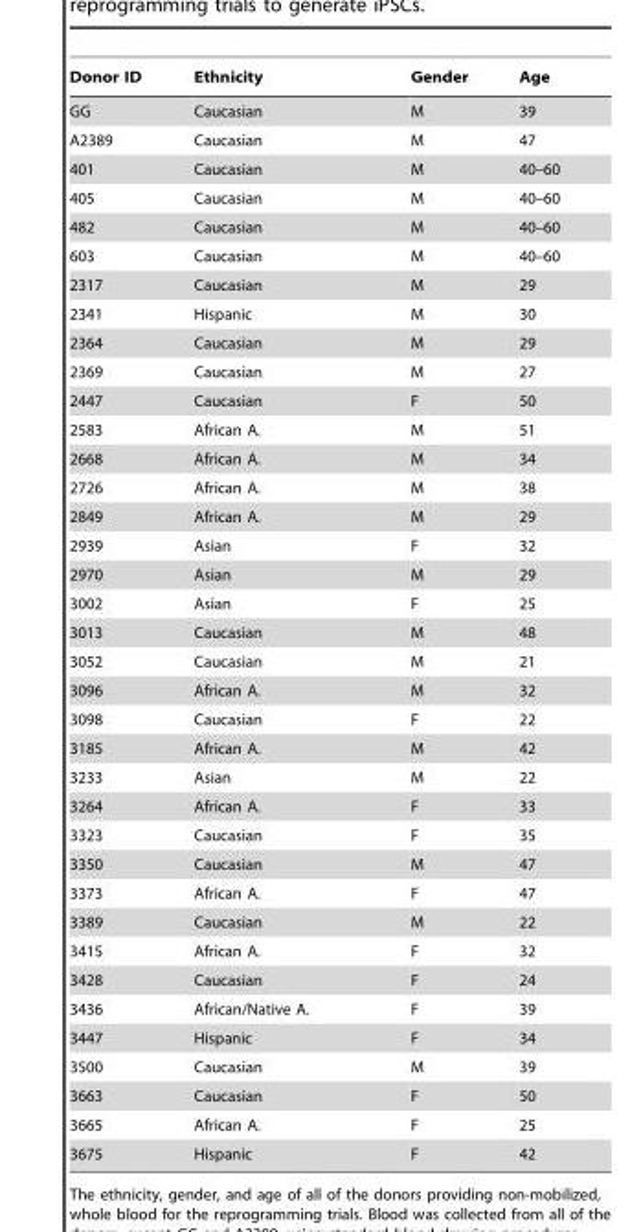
<table><thead><tr><td>Donor ID</td><td>Ethnicity</td><td>Gender</td><td>Age</td></tr></thead><tbody><tr><td>GG</td><td>Caucasian</td><td>M</td><td>39</td></tr><tr><td>A2389</td><td>Caucasian</td><td>M</td><td>47</td></tr><tr><td>401</td><td>Caucasian</td><td>M</td><td>40–60</td></tr><tr><td>405</td><td>Caucasian</td><td>M</td><td>40–60</td></tr><tr><td>482</td><td>Caucasian</td><td>M</td><td>40–60</td></tr><tr><td>603</td><td>Caucasian</td><td>M</td><td>40–60</td></tr><tr><td>2317</td><td>Caucasian</td><td>M</td><td>29</td></tr><tr><td>2341</td><td>Hispanic</td><td>M</td><td>30</td></tr><tr><td>2364</td><td>Caucasian</td><td>M</td><td>29</td></tr><tr><td>2369</td><td>Caucasian</td><td>M</td><td>27</td></tr><tr><td>2447</td><td>Caucasian</td><td>F</td><td>50</td></tr><tr><td>2583</td><td>African A.</td><td>M</td><td>51</td></tr><tr><td>2668</td><td>African A.</td><td>M</td><td>34</td></tr><tr><td>2726</td><td>African A.</td><td>M</td><td>38</td></tr><tr><td>2849</td><td>African A.</td><td>M</td><td>29</td></tr><tr><td>2939</td><td>Asian</td><td>F</td><td>32</td></tr><tr><td>2970</td><td>Asian</td><td>M</td><td>29</td></tr><tr><td>3002</td><td>Asian</td><td>F</td><td>25</td></tr><tr><td>3013</td><td>Caucasian</td><td>M</td><td>48</td></tr><tr><td>3052</td><td>Caucasian</td><td>M</td><td>21</td></tr><tr><td>3096</td><td>African A.</td><td>M</td><td>32</td></tr><tr><td>3098</td><td>Caucasian</td><td>F</td><td>22</td></tr><tr><td>3185</td><td>African A.</td><td>M</td><td>42</td></tr><tr><td>3233</td><td>Asian</td><td>M</td><td>22</td></tr><tr><td>3264</td><td>African A.</td><td>F</td><td>33</td></tr><tr><td>3323</td><td>Caucasian</td><td>F</td><td>35</td></tr><tr><td>3350</td><td>Caucasian</td><td>M</td><td>47</td></tr><tr><td>3373</td><td>African A.</td><td>F</td><td>47</td></tr><tr><td>3389</td><td>Caucasian</td><td>M</td><td>22</td></tr><tr><td>3415</td><td>African A.</td><td>F</td><td>32</td></tr><tr><td>3428</td><td>Caucasian</td><td>F</td><td>24</td></tr><tr><td>3436</td><td>African/Native A.</td><td>F</td><td>39</td></tr><tr><td>3447</td><td>Hispanic</td><td>F</td><td>34</td></tr><tr><td>3500</td><td>Caucasian</td><td>M</td><td>39</td></tr><tr><td>3663</td><td>Caucasian</td><td>F</td><td>50</td></tr><tr><td>3665</td><td>African A.</td><td>F</td><td>25</td></tr><tr><td>3675</td><td>Hispanic</td><td>F</td><td>42</td></tr></tbody></table>